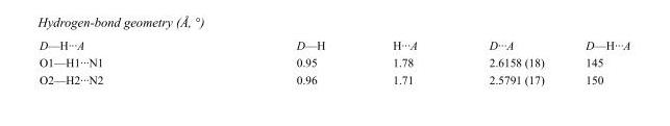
<table><tbody><tr><td>D—H···A</td><td>D—H</td><td>H···A</td><td>D···A</td><td>D—H···A</td></tr><tr><td>O1—H1···N1</td><td>0.95</td><td>1.78</td><td>2.6158 (18)</td><td>145</td></tr><tr><td>O2—H2···N2</td><td>0.96</td><td>1.71</td><td>2.5791 (17)</td><td>150</td></tr></tbody></table>